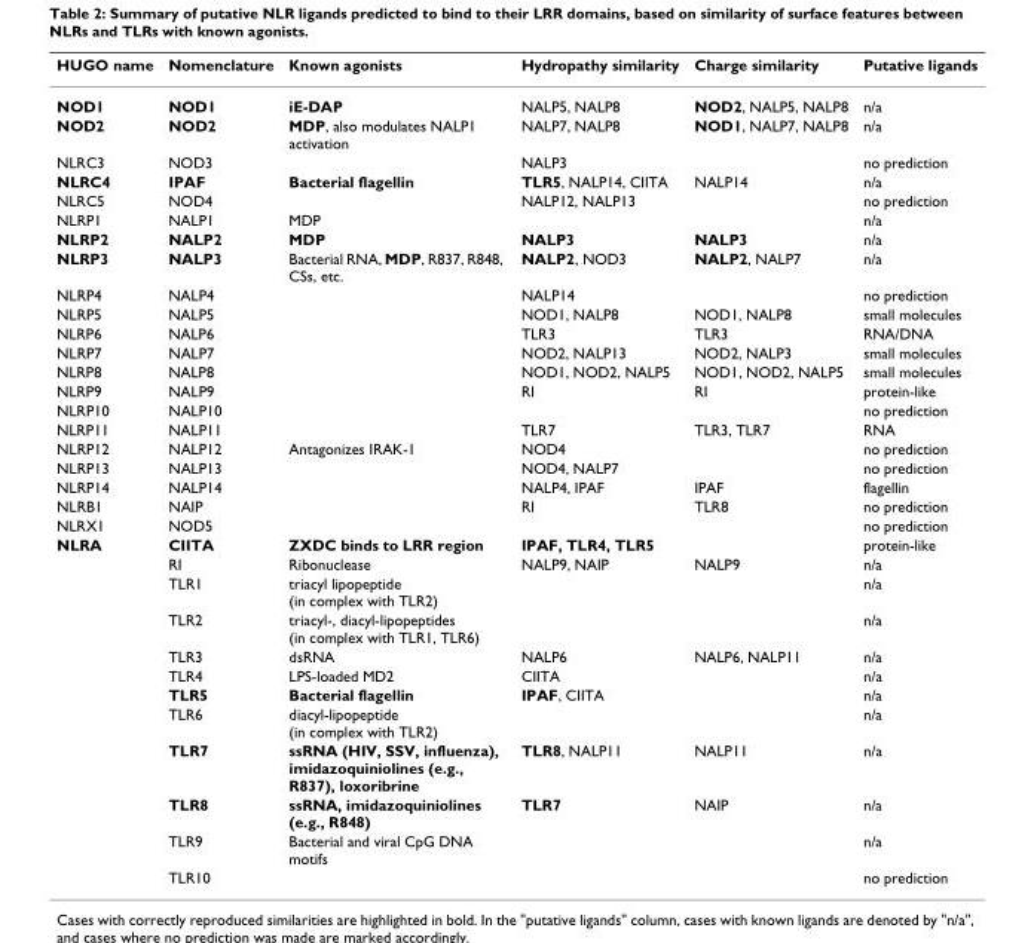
<table><thead><tr><td>HUGO name</td><td>Nomenclature</td><td>Known agonists</td><td>Hydropathy similarity</td><td>Charge similarity</td><td>Putative ligands</td></tr></thead><tbody><tr><td>NOD1</td><td>NOD1</td><td>iE-DAP</td><td>NALP5, NALP8</td><td>NOD2, NALP5, NALP8</td><td>n/a</td></tr><tr><td>NOD2</td><td>NOD2</td><td>MDP, also modulates NALP1 activation</td><td>NALP7, NALP8</td><td>NOD1, NALP7, NALP8</td><td>n/a</td></tr><tr><td>NLRC3</td><td>NOD3</td><td></td><td>NALP3</td><td></td><td>no prediction</td></tr><tr><td>NLRC4</td><td>IPAF</td><td>Bacterial flagellin</td><td>TLR5, NALP14, CIITA</td><td>NALP14</td><td>n/a</td></tr><tr><td>NLRC5</td><td>NOD4</td><td></td><td>NALP12, NALP13</td><td></td><td>no prediction</td></tr><tr><td>NLRP1</td><td>NALP1</td><td>MDP</td><td></td><td></td><td>n/a</td></tr><tr><td>NLRP2</td><td>NALP2</td><td>MDP</td><td>NALP3</td><td>NALP3</td><td>n/a</td></tr><tr><td>NLRP3</td><td>NALP3</td><td>Bacterial RNA, MDP, R837, R848, CSs, etc.</td><td>NALP2, NOD3</td><td>NALP2, NALP7</td><td>n/a</td></tr><tr><td>NLRP4</td><td>NALP4</td><td></td><td>NALP14</td><td></td><td>no prediction</td></tr><tr><td>NLRP5</td><td>NALP5</td><td></td><td>NOD1, NALP8</td><td>NOD1, NALP8</td><td>small molecules</td></tr><tr><td>NLRP6</td><td>NALP6</td><td></td><td>TLR3</td><td>TLR3</td><td>RNA/DNA</td></tr><tr><td>NLRP7</td><td>NALP7</td><td></td><td>NOD2, NALP13</td><td>NOD2, NALP3</td><td>small molecules</td></tr><tr><td>NLRP8</td><td>NALP8</td><td></td><td>NOD1, NOD2, NALP5</td><td>NOD1, NOD2, NALP5</td><td>small molecules</td></tr><tr><td>NLRP9</td><td>NALP9</td><td></td><td>RI</td><td>RI</td><td>protein-like</td></tr><tr><td>NLRP10</td><td>NALP10</td><td></td><td></td><td></td><td>no prediction</td></tr><tr><td>NLRP11</td><td>NALP11</td><td></td><td>TLR7</td><td>TLR3, TLR7</td><td>RNA</td></tr><tr><td>NLRP12</td><td>NALP12</td><td>Antagonizes IRAK-1</td><td>NOD4</td><td></td><td>no prediction</td></tr><tr><td>NLRP13</td><td>NALP13</td><td></td><td>NOD4, NALP7</td><td></td><td>no prediction</td></tr><tr><td>NLRP14</td><td>NALP14</td><td></td><td>NALP4, IPAF</td><td>IPAF</td><td>flagellin</td></tr><tr><td>NLRB1</td><td>NAIP</td><td></td><td>RI</td><td>TLR8</td><td>no prediction</td></tr><tr><td>NLRX1</td><td>NOD5</td><td></td><td></td><td></td><td>no prediction</td></tr><tr><td rowspan="12">NLRA</td><td>CIITA</td><td>ZXDC binds to LRR region</td><td>IPAF, TLR4, TLR5</td><td></td><td>protein-like</td></tr><tr><td>RI</td><td>Ribonuclease</td><td>NALP9, NAIP</td><td>NALP9</td><td>n/a</td></tr><tr><td>TLR1</td><td>triacyl lipopeptide (in complex with TLR2)</td><td></td><td></td><td>n/a</td></tr><tr><td>TLR2</td><td>triacyl-, diacyl-lipopeptides (in complex with TLR1, TLR6)</td><td></td><td></td><td>n/a</td></tr><tr><td>TLR3</td><td>dsRNA</td><td>NALP6</td><td>NALP6, NALP11</td><td>n/a</td></tr><tr><td>TLR4</td><td>LPS-loaded MD2</td><td>CIITA</td><td></td><td>n/a</td></tr><tr><td>TLR5</td><td>Bacterial flagellin</td><td>IPAF, CIITA</td><td></td><td>n/a</td></tr><tr><td>TLR6</td><td>diacyl-lipopeptide (in complex with TLR2)</td><td></td><td></td><td>n/a</td></tr><tr><td>TLR7</td><td>ssRNA (HIV, SSV, influenza), imidazoquiniolines (e.g., R837), loxoribrine</td><td>TLR8, NALP11</td><td>NALP11</td><td>n/a</td></tr><tr><td>TLR8</td><td>ssRNA, imidazoquiniolines (e.g., R848)</td><td>TLR7</td><td>NAIP</td><td>n/a</td></tr><tr><td>TLR9</td><td>Bacterial and viral CpG DNA motifs</td><td></td><td></td><td>n/a</td></tr><tr><td>TLR10</td><td></td><td></td><td></td><td>no prediction</td></tr></tbody></table>